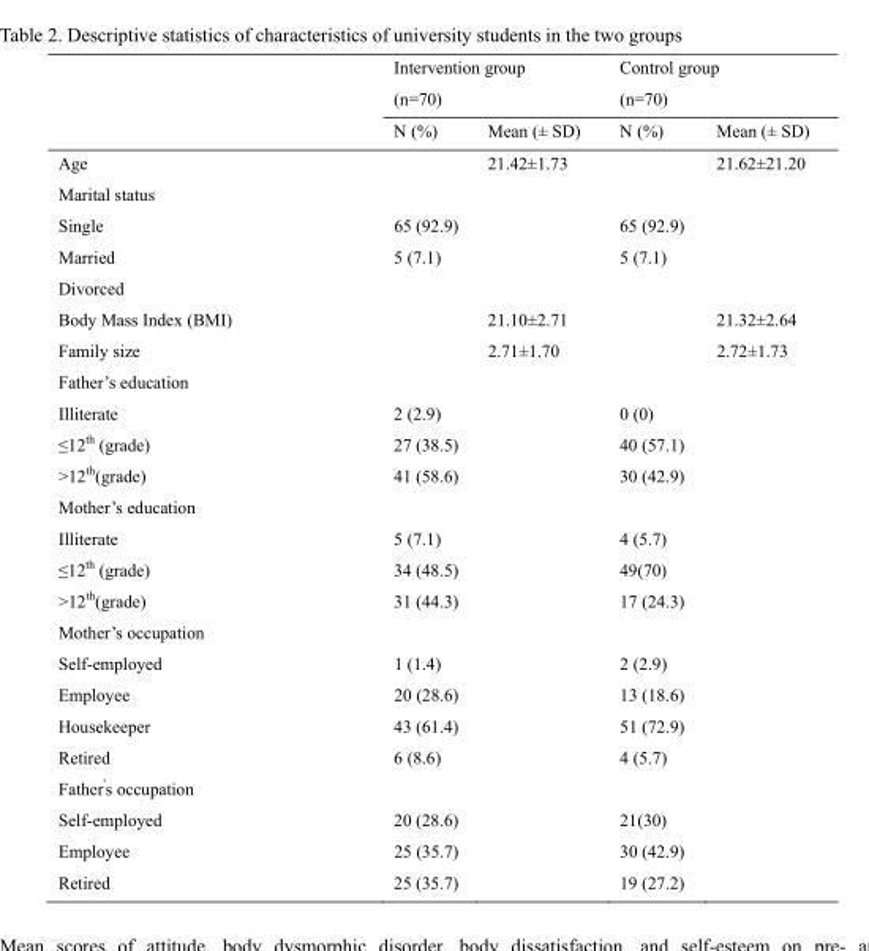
<table><thead><tr><td rowspan="2"></td><td colspan="2">Intervention group (n=70)</td><td colspan="2">Control group (n=70)</td></tr><tr><td>N (%)</td><td>Mean (± SD)</td><td>N (%)</td><td>Mean (± SD)</td></tr></thead><tbody><tr><td>Age</td><td></td><td>21.42±1.73</td><td></td><td>21.62±21.20</td></tr><tr><td colspan="5">Marital status</td></tr><tr><td>Single</td><td>65 (92.9)</td><td></td><td>65 (92.9)</td><td></td></tr><tr><td>Married</td><td>5 (7.1)</td><td></td><td>5 (7.1)</td><td></td></tr><tr><td colspan="5">Divorced</td></tr><tr><td>Body Mass Index (BMI)</td><td></td><td>21.10±2.71</td><td></td><td>21.32±2.64</td></tr><tr><td>Family size</td><td></td><td>2.71±1.70</td><td></td><td>2.72±1.73</td></tr><tr><td colspan="5">Father’s education</td></tr><tr><td>Illiterate</td><td>2 (2.9)</td><td></td><td>0 (0)</td><td></td></tr><tr><td>≤12<sup>th</sup> (grade)</td><td>27 (38.5)</td><td></td><td>40 (57.1)</td><td></td></tr><tr><td>&gt;12<sup>th</sup>(grade)</td><td>41 (58.6)</td><td></td><td>30 (42.9)</td><td></td></tr><tr><td colspan="5">Mother’s education</td></tr><tr><td>Illiterate</td><td>5 (7.1)</td><td></td><td>4 (5.7)</td><td></td></tr><tr><td>≤12<sup>th</sup> (grade)</td><td>34 (48.5)</td><td></td><td>49(70)</td><td></td></tr><tr><td>&gt;12<sup>th</sup>(grade)</td><td>31 (44.3)</td><td></td><td>17 (24.3)</td><td></td></tr><tr><td colspan="5">Mother’s occupation</td></tr><tr><td>Self-employed</td><td>1 (1.4)</td><td></td><td>2 (2.9)</td><td></td></tr><tr><td>Employee</td><td>20 (28.6)</td><td></td><td>13 (18.6)</td><td></td></tr><tr><td>Housekeeper</td><td>43 (61.4)</td><td></td><td>51 (72.9)</td><td></td></tr><tr><td>Retired</td><td>6 (8.6)</td><td></td><td>4 (5.7)</td><td></td></tr><tr><td colspan="5">Father<sup>&#x27;</sup>s occupation</td></tr><tr><td>Self-employed</td><td>20 (28.6)</td><td></td><td>21(30)</td><td></td></tr><tr><td>Employee</td><td>25 (35.7)</td><td></td><td>30 (42.9)</td><td></td></tr><tr><td>Retired</td><td>25 (35.7)</td><td></td><td>19 (27.2)</td><td></td></tr></tbody></table>